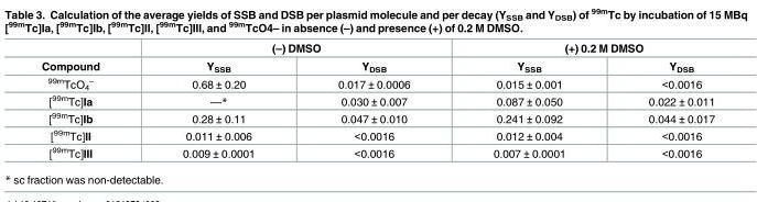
<table><thead><tr><td rowspan="2">Compound</td><td colspan="2">(–) DMSO</td><td colspan="2">(+) 0.2 M DMSO</td></tr><tr><td>Y<sub>SSB</sub></td><td>Y<sub>DSB</sub></td><td>Y<sub>SSB</sub></td><td>Y<sub>DSB</sub></td></tr></thead><tbody><tr><td><sup>99m</sup>TcO<sub>4</sub> <sup>–</sup></td><td>0.68 ± 0.20</td><td>0.017 ± 0.0006</td><td>0.015 ± 0.001</td><td>&lt;0.0016</td></tr><tr><td>[<sup>99m</sup>Tc]Ia</td><td>—*</td><td>0.030 ± 0.007</td><td>0.087 ± 0.050</td><td>0.022 ± 0.011</td></tr><tr><td>[<sup>99m</sup>Tc]Ib</td><td>0.28 ± 0.11</td><td>0.047 ± 0.010</td><td>0.241 ± 0.092</td><td>0.044 ± 0.017</td></tr><tr><td>[<sup>99m</sup>Tc]II</td><td>0.011 ± 0.006</td><td>&lt;0.0016</td><td>0.012 ± 0.004</td><td>&lt;0.0016</td></tr><tr><td>[<sup>99m</sup>Tc]III</td><td>0.009 ± 0.0001</td><td>&lt;0.0016</td><td>0.007 ± 0.0001</td><td>&lt;0.0016</td></tr></tbody></table>